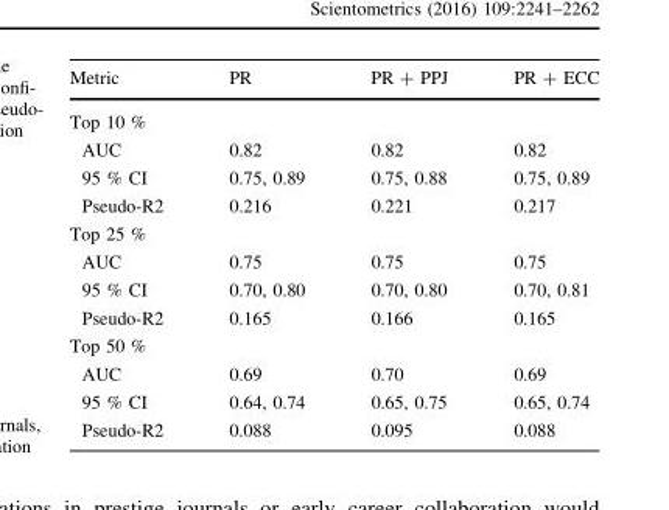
<table><thead><tr><td>Metric</td><td>PR</td><td>PR + PPJ</td><td>PR + ECC</td></tr></thead><tbody><tr><td colspan="4">Top 10 %</td></tr><tr><td>AUC</td><td>0.82</td><td>0.82</td><td>0.82</td></tr><tr><td>95 % CI</td><td>0.75, 0.89</td><td>0.75, 0.88</td><td>0.75, 0.89</td></tr><tr><td>Pseudo-R2</td><td>0.216</td><td>0.221</td><td>0.217</td></tr><tr><td colspan="4">Top 25 %</td></tr><tr><td>AUC</td><td>0.75</td><td>0.75</td><td>0.75</td></tr><tr><td>95 % CI</td><td>0.70, 0.80</td><td>0.70, 0.80</td><td>0.70, 0.81</td></tr><tr><td>Pseudo-R2</td><td>0.165</td><td>0.166</td><td>0.165</td></tr><tr><td colspan="4">Top 50 %</td></tr><tr><td>AUC</td><td>0.69</td><td>0.70</td><td>0.69</td></tr><tr><td>95 % CI</td><td>0.64, 0.74</td><td>0.65, 0.75</td><td>0.65, 0.74</td></tr><tr><td>Pseudo-R2</td><td>0.088</td><td>0.095</td><td>0.088</td></tr></tbody></table>